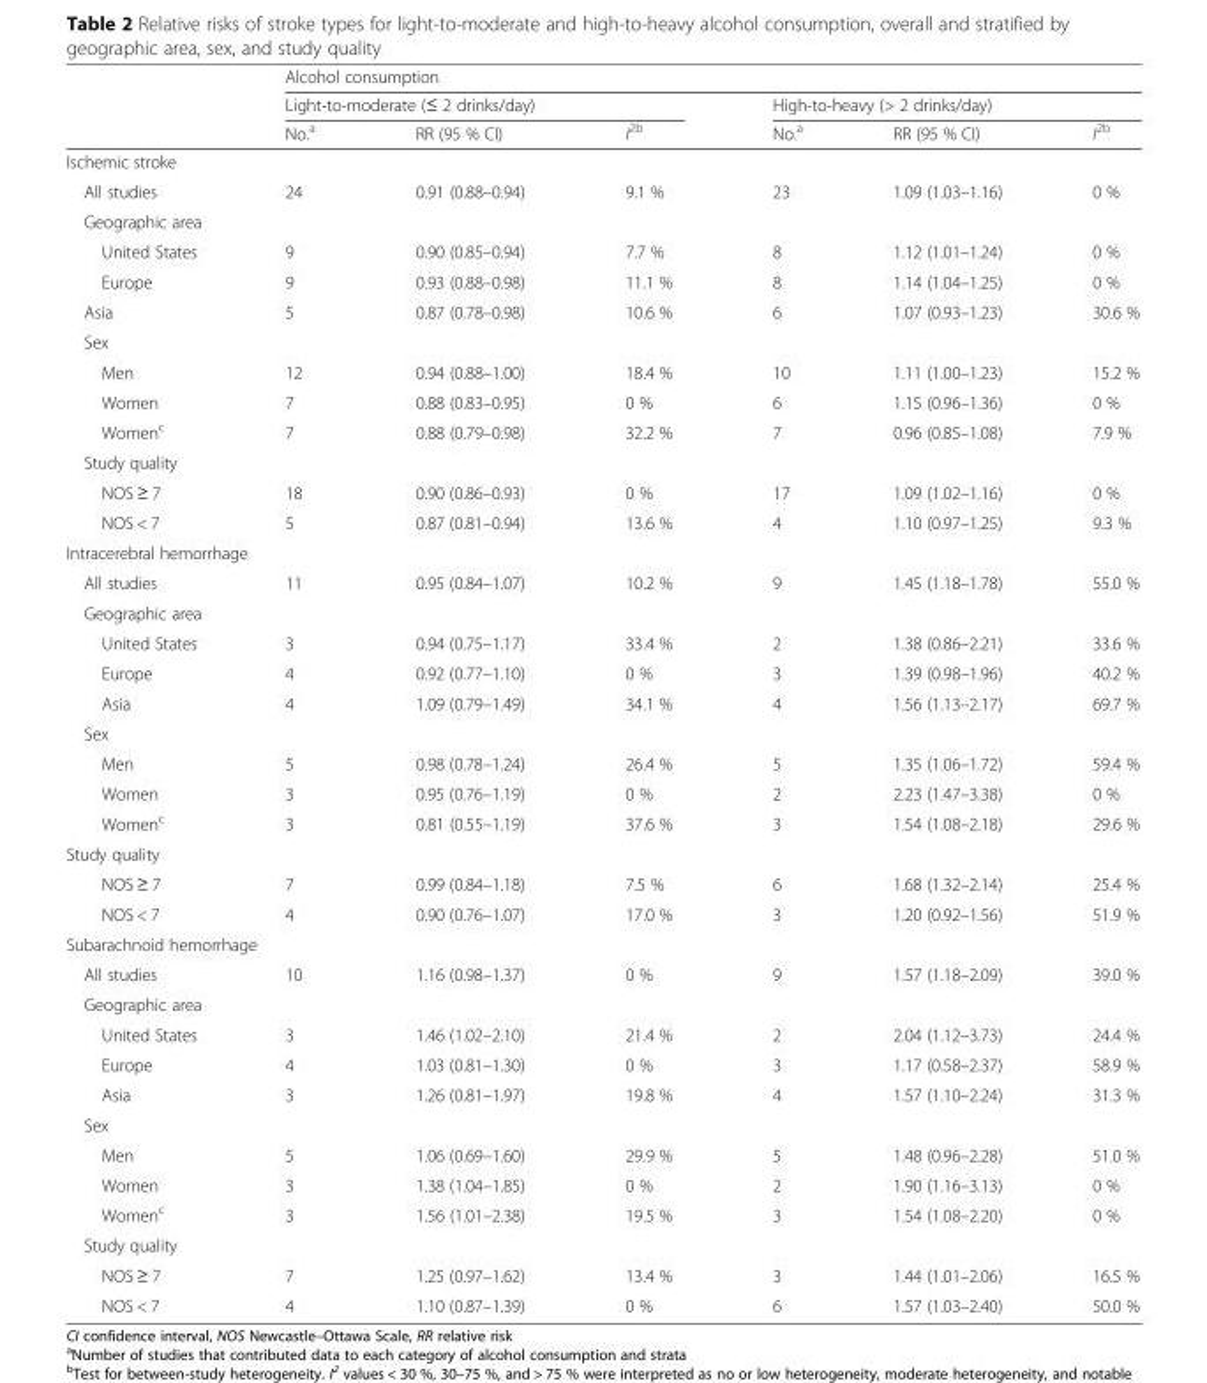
<table><thead><tr><td rowspan="3"></td><td colspan="6">Alcohol consumption</td></tr><tr><td colspan="3">Light-to-moderate (≤ 2 drinks/day)</td><td colspan="3">High-to-heavy (&gt; 2 drinks/day)</td></tr><tr><td>No.<sup>a</sup></td><td>RR (95 % CI)</td><td>I<sup>2b</sup></td><td>No.<sup>a</sup></td><td>RR (95 % CI)</td><td>I<sup>2b</sup></td></tr></thead><tbody><tr><td colspan="7">Ischemic stroke</td></tr><tr><td>All studies</td><td>24</td><td>0.91 (0.88–0.94)</td><td>9.1 %</td><td>23</td><td>1.09 (1.03–1.16)</td><td>0 %</td></tr><tr><td colspan="7">Geographic area</td></tr><tr><td>United States</td><td>9</td><td>0.90 (0.85–0.94)</td><td>7.7 %</td><td>8</td><td>1.12 (1.01–1.24)</td><td>0 %</td></tr><tr><td>Europe</td><td>9</td><td>0.93 (0.88–0.98)</td><td>11.1 %</td><td>8</td><td>1.14 (1.04–1.25)</td><td>0 %</td></tr><tr><td>Asia</td><td>5</td><td>0.87 (0.78–0.98)</td><td>10.6 %</td><td>6</td><td>1.07 (0.93–1.23)</td><td>30.6 %</td></tr><tr><td colspan="7">Sex</td></tr><tr><td>Men</td><td>12</td><td>0.94 (0.88–1.00)</td><td>18.4 %</td><td>10</td><td>1.11 (1.00–1.23)</td><td>15.2 %</td></tr><tr><td>Women</td><td>7</td><td>0.88 (0.83–0.95)</td><td>0 %</td><td>6</td><td>1.15 (0.96–1.36)</td><td>0 %</td></tr><tr><td>Women<sup>c</sup></td><td>7</td><td>0.88 (0.79–0.98)</td><td>32.2 %</td><td>7</td><td>0.96 (0.85–1.08)</td><td>7.9 %</td></tr><tr><td colspan="7">Study quality</td></tr><tr><td>NOS ≥ 7</td><td>18</td><td>0.90 (0.86–0.93)</td><td>0 %</td><td>17</td><td>1.09 (1.02–1.16)</td><td>0 %</td></tr><tr><td>NOS &lt; 7</td><td>5</td><td>0.87 (0.81–0.94)</td><td>13.6 %</td><td>4</td><td>1.10 (0.97–1.25)</td><td>9.3 %</td></tr><tr><td colspan="7">Intracerebral hemorrhage</td></tr><tr><td>All studies</td><td>11</td><td>0.95 (0.84–1.07)</td><td>10.2 %</td><td>9</td><td>1.45 (1.18–1.78)</td><td>55.0 %</td></tr><tr><td colspan="7">Geographic area</td></tr><tr><td>United States</td><td>3</td><td>0.94 (0.75–1.17)</td><td>33.4 %</td><td>2</td><td>1.38 (0.86–2.21)</td><td>33.6 %</td></tr><tr><td>Europe</td><td>4</td><td>0.92 (0.77–1.10)</td><td>0 %</td><td>3</td><td>1.39 (0.98–1.96)</td><td>40.2 %</td></tr><tr><td>Asia</td><td>4</td><td>1.09 (0.79–1.49)</td><td>34.1 %</td><td>4</td><td>1.56 (1.13–2.17)</td><td>69.7 %</td></tr><tr><td colspan="7">Sex</td></tr><tr><td>Men</td><td>5</td><td>0.98 (0.78–1.24)</td><td>26.4 %</td><td>5</td><td>1.35 (1.06–1.72)</td><td>59.4 %</td></tr><tr><td>Women</td><td>3</td><td>0.95 (0.76–1.19)</td><td>0 %</td><td>2</td><td>2.23 (1.47–3.38)</td><td>0 %</td></tr><tr><td>Women<sup>c</sup></td><td>3</td><td>0.81 (0.55–1.19)</td><td>37.6 %</td><td>3</td><td>1.54 (1.08–2.18)</td><td>29.6 %</td></tr><tr><td colspan="7">Study quality</td></tr><tr><td>NOS ≥ 7</td><td>7</td><td>0.99 (0.84–1.18)</td><td>7.5 %</td><td>6</td><td>1.68 (1.32–2.14)</td><td>25.4 %</td></tr><tr><td>NOS &lt; 7</td><td>4</td><td>0.90 (0.76–1.07)</td><td>17.0 %</td><td>3</td><td>1.20 (0.92–1.56)</td><td>51.9 %</td></tr><tr><td colspan="7">Subarachnoid hemorrhage</td></tr><tr><td>All studies</td><td>10</td><td>1.16 (0.98–1.37)</td><td>0 %</td><td>9</td><td>1.57 (1.18–2.09)</td><td>39.0 %</td></tr><tr><td colspan="7">Geographic area</td></tr><tr><td>United States</td><td>3</td><td>1.46 (1.02–2.10)</td><td>21.4 %</td><td>2</td><td>2.04 (1.12–3.73)</td><td>24.4 %</td></tr><tr><td>Europe</td><td>4</td><td>1.03 (0.81–1.30)</td><td>0 %</td><td>3</td><td>1.17 (0.58–2.37)</td><td>58.9 %</td></tr><tr><td>Asia</td><td>3</td><td>1.26 (0.81–1.97)</td><td>19.8 %</td><td>4</td><td>1.57 (1.10–2.24)</td><td>31.3 %</td></tr><tr><td colspan="7">Sex</td></tr><tr><td>Men</td><td>5</td><td>1.06 (0.69–1.60)</td><td>29.9 %</td><td>5</td><td>1.48 (0.96–2.28)</td><td>51.0 %</td></tr><tr><td>Women</td><td>3</td><td>1.38 (1.04–1.85)</td><td>0 %</td><td>2</td><td>1.90 (1.16–3.13)</td><td>0 %</td></tr><tr><td>Women<sup>c</sup></td><td>3</td><td>1.56 (1.01–2.38)</td><td>19.5 %</td><td>3</td><td>1.54 (1.08–2.20)</td><td>0 %</td></tr><tr><td colspan="7">Study quality</td></tr><tr><td>NOS ≥ 7</td><td>7</td><td>1.25 (0.97–1.62)</td><td>13.4 %</td><td>3</td><td>1.44 (1.01–2.06)</td><td>16.5 %</td></tr><tr><td>NOS &lt; 7</td><td>4</td><td>1.10 (0.87–1.39)</td><td>0 %</td><td>6</td><td>1.57 (1.03–2.40)</td><td>50.0 %</td></tr></tbody></table>